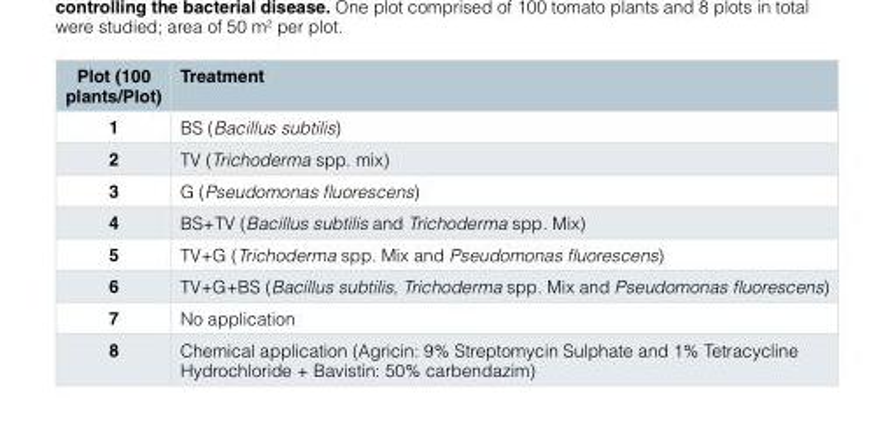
<table><thead><tr><td>Plot (100 plants/Plot)</td><td>Treatment</td></tr></thead><tbody><tr><td>1</td><td>BS (Bacillus subtilis)</td></tr><tr><td>2</td><td>TV (Trichoderma spp. mix)</td></tr><tr><td>3</td><td>G (Pseudomonas fluorescens)</td></tr><tr><td>4</td><td>BS+TV (Bacillus subtilis and Trichoderma spp. Mix)</td></tr><tr><td>5</td><td>TV+G (Trichoderma spp. Mix and Pseudomonas fluorescens)</td></tr><tr><td>6</td><td>TV+G+BS (Bacillus subtilis, Trichoderma spp. Mix and Pseudomonas fluorescens)</td></tr><tr><td>7</td><td>No application</td></tr><tr><td>8</td><td>Chemical application (Agricin: 9% Streptomycin Sulphate and 1% Tetracycline Hydrochloride + Bavistin: 50% carbendazim)</td></tr></tbody></table>